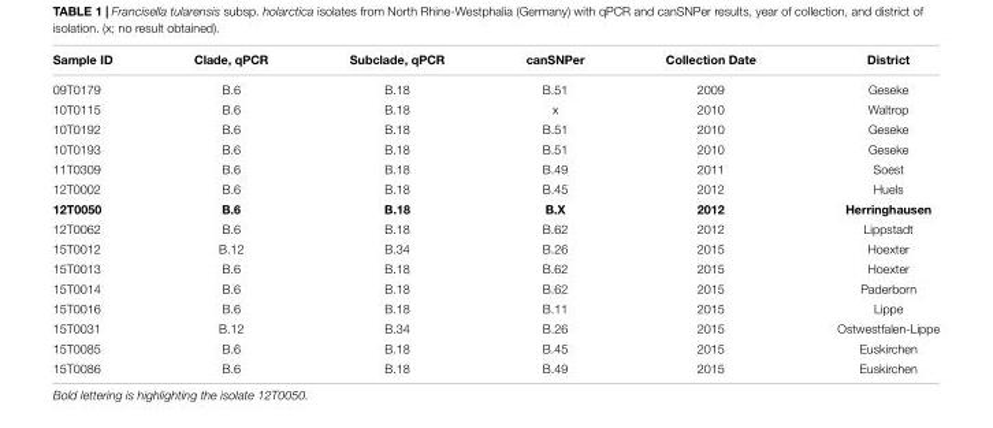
<table><thead><tr><td>Sample ID</td><td>Clade, qPCR</td><td>Subclade, qPCR</td><td>canSNPer</td><td>Collection Date</td><td>District</td></tr></thead><tbody><tr><td>09T0179</td><td>B.6</td><td>B.18</td><td>B.51</td><td>2009</td><td>Geseke</td></tr><tr><td>10T0115</td><td>B.6</td><td>B.18</td><td>x</td><td>2010</td><td>Waltrop</td></tr><tr><td>10T0192</td><td>B.6</td><td>B.18</td><td>B.51</td><td>2010</td><td>Geseke</td></tr><tr><td>10T0193</td><td>B.6</td><td>B.18</td><td>B.51</td><td>2010</td><td>Geseke</td></tr><tr><td>11T0309</td><td>B.6</td><td>B.18</td><td>B.49</td><td>2011</td><td>Soest</td></tr><tr><td>12T0002</td><td>B.6</td><td>B.18</td><td>B.45</td><td>2012</td><td>Huels</td></tr><tr><td>12T0050</td><td>B.6</td><td>B.18</td><td>B.X</td><td>2012</td><td>Herringhausen</td></tr><tr><td>12T0062</td><td>B.6</td><td>B.18</td><td>B.62</td><td>2012</td><td>Lippstadt</td></tr><tr><td>15T0012</td><td>B.12</td><td>B.34</td><td>B.26</td><td>2015</td><td>Hoexter</td></tr><tr><td>15T0013</td><td>B.6</td><td>B.18</td><td>B.62</td><td>2015</td><td>Hoexter</td></tr><tr><td>15T0014</td><td>B.6</td><td>B.18</td><td>B.62</td><td>2015</td><td>Paderborn</td></tr><tr><td>15T0016</td><td>B.6</td><td>B.18</td><td>B.11</td><td>2015</td><td>Lippe</td></tr><tr><td>15T0031</td><td>B.12</td><td>B.34</td><td>B.26</td><td>2015</td><td>Ostwestfalen-Lippe</td></tr><tr><td>15T0085</td><td>B.6</td><td>B.18</td><td>B.45</td><td>2015</td><td>Euskirchen</td></tr><tr><td>15T0086</td><td>B.6</td><td>B.18</td><td>B.49</td><td>2015</td><td>Euskirchen</td></tr></tbody></table>